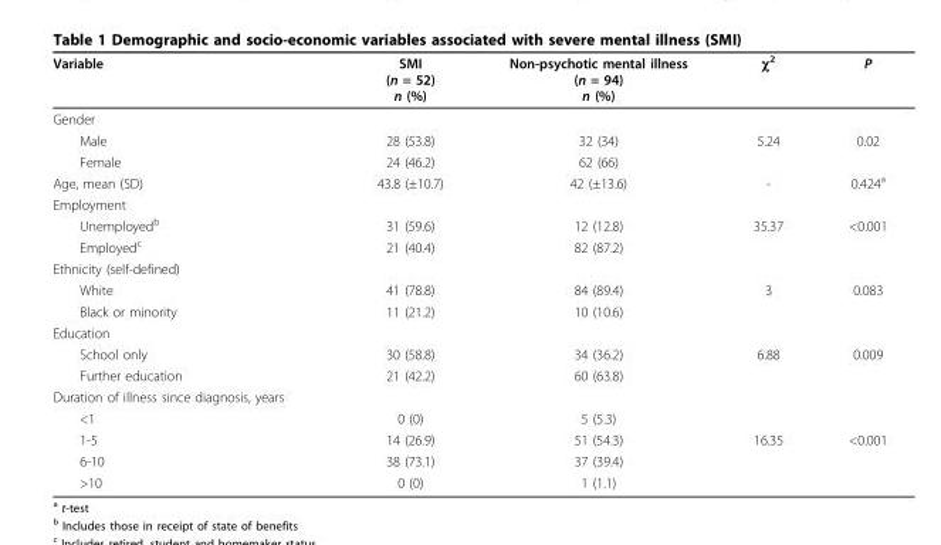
<table><thead><tr><td>Variable</td><td>SMI (n = 52) n (%)</td><td>Non-psychotic mental illness (n = 94) n (%)</td><td>χ<sup>2</sup></td><td>P</td></tr></thead><tbody><tr><td colspan="5">Gender</td></tr><tr><td>Male</td><td>28 (53.8)</td><td>32 (34)</td><td>5.24</td><td>0.02</td></tr><tr><td>Female</td><td>24 (46.2)</td><td>62 (66)</td><td></td><td></td></tr><tr><td>Age, mean (SD)</td><td>43.8 (±10.7)</td><td>42 (±13.6)</td><td>-</td><td>0.424<sup>a</sup></td></tr><tr><td colspan="5">Employment</td></tr><tr><td>Unemployed<sup>b</sup></td><td>31 (59.6)</td><td>12 (12.8)</td><td>35.37</td><td>&lt;0.001</td></tr><tr><td>Employed<sup>c</sup></td><td>21 (40.4)</td><td>82 (87.2)</td><td></td><td></td></tr><tr><td colspan="5">Ethnicity (self-defined)</td></tr><tr><td>White</td><td>41 (78.8)</td><td>84 (89.4)</td><td>3</td><td>0.083</td></tr><tr><td>Black or minority</td><td>11 (21.2)</td><td>10 (10.6)</td><td></td><td></td></tr><tr><td colspan="5">Education</td></tr><tr><td>School only</td><td>30 (58.8)</td><td>34 (36.2)</td><td>6.88</td><td>0.009</td></tr><tr><td>Further education</td><td>21 (42.2)</td><td>60 (63.8)</td><td></td><td></td></tr><tr><td colspan="5">Duration of illness since diagnosis, years</td></tr><tr><td>&lt;1</td><td>0 (0)</td><td>5 (5.3)</td><td></td><td></td></tr><tr><td>1-5</td><td>14 (26.9)</td><td>51 (54.3)</td><td>16.35</td><td>&lt;0.001</td></tr><tr><td>6-10</td><td>38 (73.1)</td><td>37 (39.4)</td><td></td><td></td></tr><tr><td>&gt;10</td><td>0 (0)</td><td>1 (1.1)</td><td></td><td></td></tr></tbody></table>